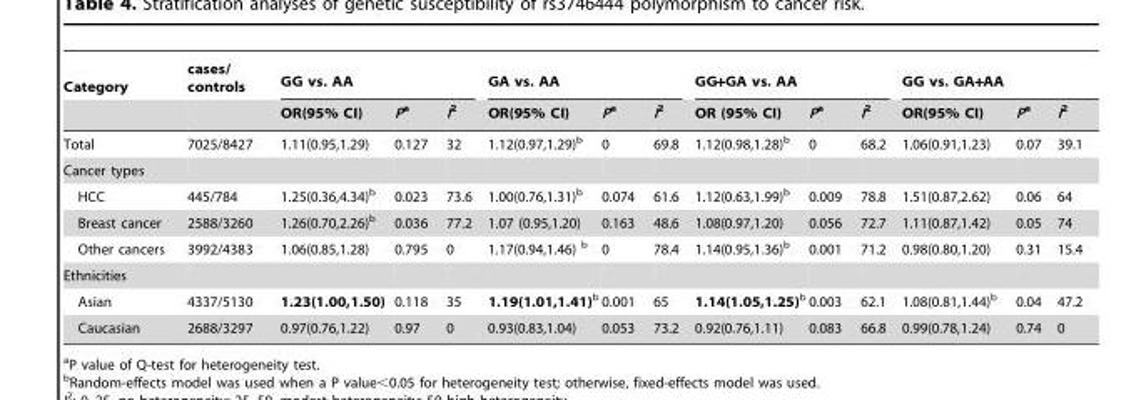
<table><thead><tr><td rowspan="2">Category</td><td rowspan="2">cases/ controls</td><td colspan="3">GG vs. AA</td><td colspan="3">GA vs. AA</td><td colspan="3">GG+GA vs. AA</td><td colspan="3">GG vs. GA+AA</td></tr><tr><td>OR(95% CI)</td><td>Pa</td><td>I<sup>2</sup></td><td>OR(95% CI)</td><td>Pa</td><td>I<sup>2</sup></td><td>OR (95% CI)</td><td>Pa</td><td>I<sup>2</sup></td><td>OR(95% CI)</td><td>Pa</td><td>I<sup>2</sup></td></tr></thead><tbody><tr><td>Total</td><td>7025/8427</td><td>1.11(0.95,1.29)</td><td>0.127</td><td>32</td><td>1.12(0.97,1.29)<sup>b</sup></td><td>0</td><td>69.8</td><td>1.12(0.98,1.28)<sup>b</sup></td><td>0</td><td>68.2</td><td>1.06(0.91,1.23)</td><td>0.07</td><td>39.1</td></tr><tr><td colspan="14">Cancer types</td></tr><tr><td>HCC</td><td>445/784</td><td>1.25(0.36,4.34)<sup>b</sup></td><td>0.023</td><td>73.6</td><td>1.00(0.76,1.31)<sup>b</sup></td><td>0.074</td><td>61.6</td><td>1.12(0.63,1.99)<sup>b</sup></td><td>0.009</td><td>78.8</td><td>1.51(0.87,2.62)</td><td>0.06</td><td>64</td></tr><tr><td>Breast cancer</td><td>2588/3260</td><td>1.26(0.70,2.26)<sup>b</sup></td><td>0.036</td><td>77.2</td><td>1.07 (0.95,1.20)</td><td>0.163</td><td>48.6</td><td>1.08(0.97,1.20)</td><td>0.056</td><td>72.7</td><td>1.11(0.87,1.42)</td><td>0.05</td><td>74</td></tr><tr><td>Other cancers</td><td>3992/4383</td><td>1.06(0.85,1.28)</td><td>0.795</td><td>0</td><td>1.17(0.94,1.46) b</td><td>0</td><td>78.4</td><td>1.14(0.95,1.36)<sup>b</sup></td><td>0.001</td><td>71.2</td><td>0.98(0.80,1.20)</td><td>0.31</td><td>15.4</td></tr><tr><td colspan="14">Ethnicities</td></tr><tr><td>Asian</td><td>4337/5130</td><td>1.23(1.00,1.50)</td><td>0.118</td><td>35</td><td>1.19(1.01,1.41)b</td><td>0.001</td><td>65</td><td>1.14(1.05,1.25)b</td><td>0.003</td><td>62.1</td><td>1.08(0.81,1.44)<sup>b</sup></td><td>0.04</td><td>47.2</td></tr><tr><td>Caucasian</td><td>2688/3297</td><td>0.97(0.76,1.22)</td><td>0.97</td><td>0</td><td>0.93(0.83,1.04)</td><td>0.053</td><td>73.2</td><td>0.92(0.76,1.11)</td><td>0.083</td><td>66.8</td><td>0.99(0.78,1.24)</td><td>0.74</td><td>0</td></tr></tbody></table>